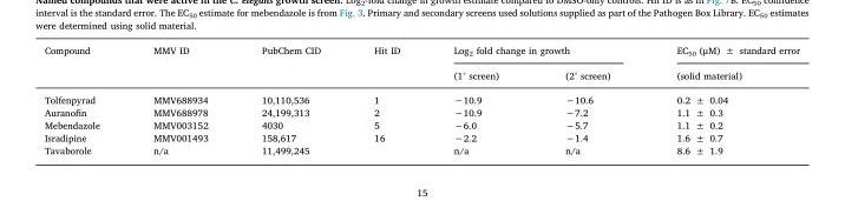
<table><thead><tr><td rowspan="2">Compound</td><td rowspan="2">MMV ID</td><td rowspan="2">PubChem CID</td><td rowspan="2">Hit ID</td><td colspan="2">Log<sub>2</sub> fold change in growth</td><td rowspan="2">EC<sub>50</sub> (μM) ± standard error (solid material)</td></tr><tr><td>(1° screen)</td><td>(2° screen)</td></tr></thead><tbody><tr><td>Tolfenpyrad</td><td>MMV688934</td><td>10,110,536</td><td>1</td><td>−10.9</td><td>−10.6</td><td>0.2 ± 0.04</td></tr><tr><td>Auranofin</td><td>MMV688978</td><td>24,199,313</td><td>2</td><td>−10.9</td><td>−7.2</td><td>1.1 ± 0.3</td></tr><tr><td>Mebendazole</td><td>MMV003152</td><td>4030</td><td>5</td><td>−6.0</td><td>−5.7</td><td>1.1 ± 0.2</td></tr><tr><td>Isradipine</td><td>MMV001493</td><td>158,617</td><td>16</td><td>−2.2</td><td>−1.4</td><td>1.6 ± 0.7</td></tr><tr><td>Tavaborole</td><td>n/a</td><td>11,499,245</td><td></td><td>n/a</td><td>n/a</td><td>8.6 ± 1.9</td></tr></tbody></table>